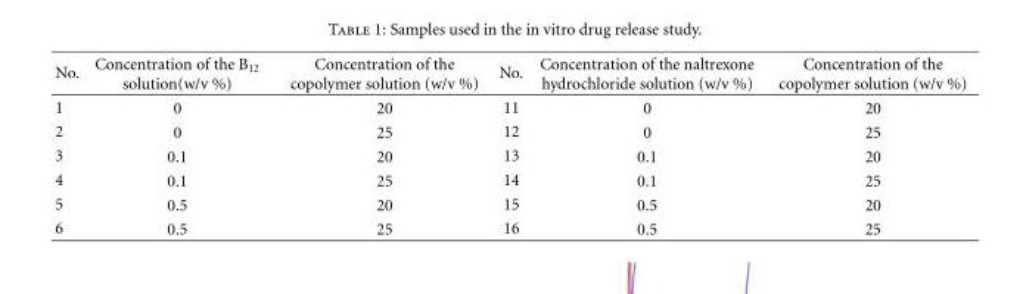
<table><thead><tr><td>No.</td><td>Concentration of the B<sub>12</sub> solution(w/v %)</td><td>Concentration of the copolymer solution (w/v %)</td><td>No.</td><td>Concentration of the naltrexone hydrochloride solution (w/v %)</td><td>Concentration of the copolymer solution (w/v %)</td></tr></thead><tbody><tr><td>1</td><td>0</td><td>20</td><td>11</td><td>0</td><td>20</td></tr><tr><td>2</td><td>0</td><td>25</td><td>12</td><td>0</td><td>25</td></tr><tr><td>3</td><td>0.1</td><td>20</td><td>13</td><td>0.1</td><td>20</td></tr><tr><td>4</td><td>0.1</td><td>25</td><td>14</td><td>0.1</td><td>25</td></tr><tr><td>5</td><td>0.5</td><td>20</td><td>15</td><td>0.5</td><td>20</td></tr><tr><td>6</td><td>0.5</td><td>25</td><td>16</td><td>0.5</td><td>25</td></tr></tbody></table>